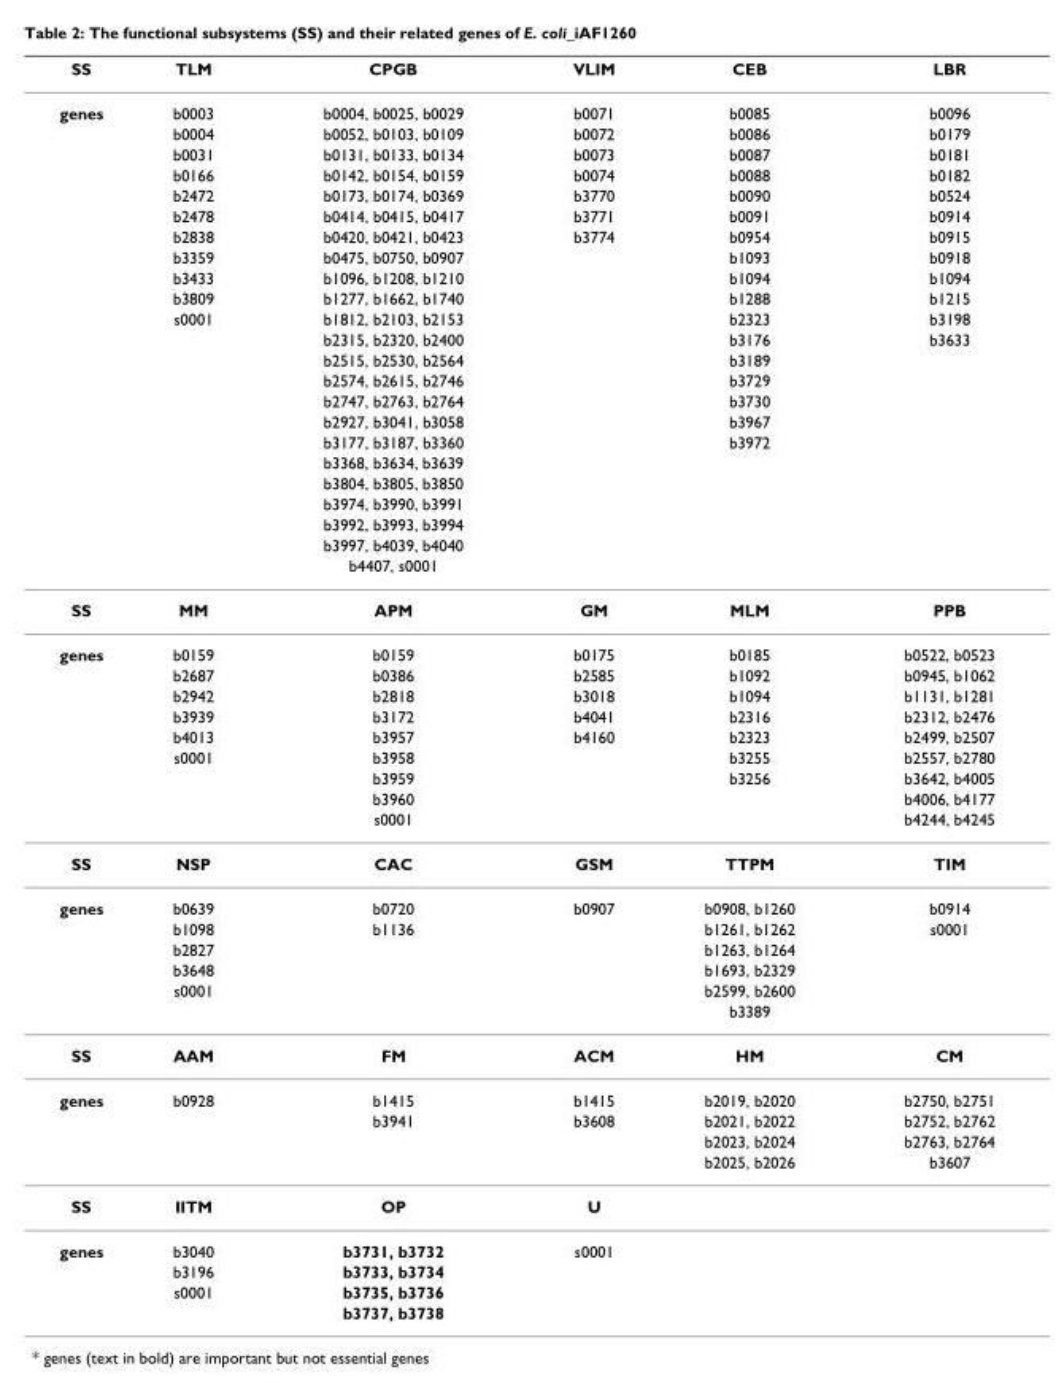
<table><thead><tr><td>SS</td><td>TLM</td><td>CPGB</td><td>VLIM</td><td>CEB</td><td>LBR</td></tr></thead><tbody><tr><td rowspan="23">genes</td><td>b0003</td><td>b0004, b0025, b0029</td><td>b0071</td><td>b0085</td><td>b0096</td></tr><tr><td>b0004</td><td>b0052, b0103, b0109</td><td>b0072</td><td>b0086</td><td>b0179</td></tr><tr><td>b0031</td><td>b0131, b0133, b0134</td><td>b0073</td><td>b0087</td><td>b0181</td></tr><tr><td>b0166</td><td>b0142, b0154, b0159</td><td>b0074</td><td>b0088</td><td>b0182</td></tr><tr><td>b2472</td><td>b0173, b0174, b0369</td><td>b3770</td><td>b0090</td><td>b0524</td></tr><tr><td>b2478</td><td>b0414, b0415, b0417</td><td>b3771</td><td>b0091</td><td>b0914</td></tr><tr><td>b2838</td><td>b0420, b0421, b0423</td><td>b3774</td><td>b0954</td><td>b0915</td></tr><tr><td>b3359</td><td>b0475, b0750, b0907</td><td></td><td>b1093</td><td>b0918</td></tr><tr><td>b3433</td><td>b1096, b1208, b1210</td><td></td><td>b1094</td><td>b1094</td></tr><tr><td>b3809</td><td>b1277, b1662, b1740</td><td></td><td>b1288</td><td>b1215</td></tr><tr><td>s0001</td><td>b1812, b2103, b2153</td><td></td><td>b2323</td><td>b3198</td></tr><tr><td></td><td>b2315, b2320, b2400</td><td></td><td>b3176</td><td>b3633</td></tr><tr><td></td><td>b2515, b2530, b2564</td><td></td><td>b3189</td><td></td></tr><tr><td></td><td>b2574, b2615, b2746</td><td></td><td>b3729</td><td></td></tr><tr><td></td><td>b2747, b2763, b2764</td><td></td><td>b3730</td><td></td></tr><tr><td></td><td>b2927, b3041, b3058</td><td></td><td>b3967</td><td></td></tr><tr><td></td><td>b3177, b3187, b3360</td><td></td><td>b3972</td><td></td></tr><tr><td></td><td>b3368, b3634, b3639</td><td></td><td></td><td></td></tr><tr><td></td><td>b3804, b3805, b3850</td><td></td><td></td><td></td></tr><tr><td></td><td>b3974, b3990, b3991</td><td></td><td></td><td></td></tr><tr><td></td><td>b3992, b3993, b3994</td><td></td><td></td><td></td></tr><tr><td></td><td>b3997, b4039, b4040</td><td></td><td></td><td></td></tr><tr><td></td><td>b4407, s0001</td><td></td><td></td><td></td></tr><tr><td>SS</td><td>MM</td><td>APM</td><td>GM</td><td>MLM</td><td>PPB</td></tr><tr><td rowspan="9">genes</td><td>b0159</td><td>b0159</td><td>b0175</td><td>b0185</td><td>b0522, b0523</td></tr><tr><td>b2687</td><td>b0386</td><td>b2585</td><td>b1092</td><td>b0945, b1062</td></tr><tr><td>b2942</td><td>b2818</td><td>b3018</td><td>b1094</td><td>b1131, b1281</td></tr><tr><td>b3939</td><td>b3172</td><td>b4041</td><td>b2316</td><td>b2312, b2476</td></tr><tr><td>b4013</td><td>b3957</td><td>b4160</td><td>b2323</td><td>b2499, b2507</td></tr><tr><td>s0001</td><td>b3958</td><td></td><td>b3255</td><td>b2557, b2780</td></tr><tr><td></td><td>b3959</td><td></td><td>b3256</td><td>b3642, b4005</td></tr><tr><td></td><td>b3960</td><td></td><td></td><td>b4006, b4177</td></tr><tr><td></td><td>s0001</td><td></td><td></td><td>b4244, b4245</td></tr><tr><td>SS</td><td>NSP</td><td>CAC</td><td>GSM</td><td>TTPM</td><td>TIM</td></tr><tr><td rowspan="6">genes</td><td>b0639</td><td>b0720</td><td>b0907</td><td>b0908, b1260</td><td>b0914</td></tr><tr><td>b1098</td><td>b1136</td><td></td><td>b1261, b1262</td><td>s0001</td></tr><tr><td>b2827</td><td></td><td></td><td>b1263, b1264</td><td></td></tr><tr><td>b3648</td><td></td><td></td><td>b1693, b2329</td><td></td></tr><tr><td>s0001</td><td></td><td></td><td>b2599, b2600</td><td></td></tr><tr><td></td><td></td><td></td><td>b3389</td><td></td></tr><tr><td>SS</td><td>AAM</td><td>FM</td><td>ACM</td><td>HM</td><td>CM</td></tr><tr><td rowspan="4">genes</td><td>b0928</td><td>b1415</td><td>b1415</td><td>b2019, b2020</td><td>b2750, b2751</td></tr><tr><td></td><td>b3941</td><td>b3608</td><td>b2021, b2022</td><td>b2752, b2762</td></tr><tr><td></td><td></td><td></td><td>b2023, b2024</td><td>b2763, b2764</td></tr><tr><td></td><td></td><td></td><td>b2025, b2026</td><td>b3607</td></tr><tr><td>SS</td><td>IITM</td><td>OP</td><td>U</td><td></td><td></td></tr><tr><td rowspan="4">genes</td><td>b3040</td><td>b3731, b3732</td><td>s0001</td><td></td><td></td></tr><tr><td>b3196</td><td>b3733, b3734</td><td></td><td></td><td></td></tr><tr><td>s0001</td><td>b3735, b3736</td><td></td><td></td><td></td></tr><tr><td></td><td>b3737, b3738</td><td></td><td></td><td></td></tr></tbody></table>